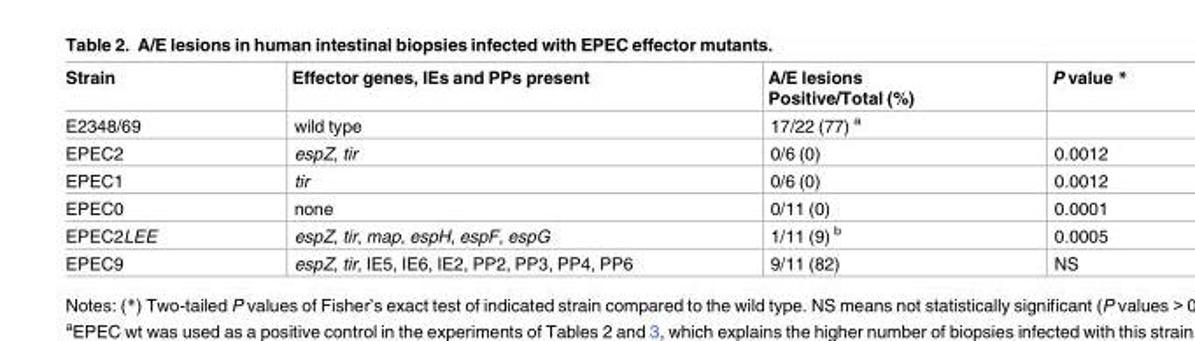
<table><thead><tr><td>Strain</td><td>Effector genes, IEs and PPs present</td><td>A/E lesions Positive/Total (%)</td><td>P value *</td></tr></thead><tbody><tr><td>E2348/69</td><td>wild type</td><td>17/22 (77) <sup>a</sup></td><td></td></tr><tr><td>EPEC2</td><td>espZ, tir</td><td>0/6 (0)</td><td>0.0012</td></tr><tr><td>EPEC1</td><td>tir</td><td>0/6 (0)</td><td>0.0012</td></tr><tr><td>EPEC0</td><td>none</td><td>0/11 (0)</td><td>0.0001</td></tr><tr><td>EPEC2LEE</td><td>espZ, tir, map, espH, espF, espG</td><td>1/11 (9) <sup>b</sup></td><td>0.0005</td></tr><tr><td>EPEC9</td><td>espZ, tir, IE5, IE6, IE2, PP2, PP3, PP4, PP6</td><td>9/11 (82)</td><td>NS</td></tr></tbody></table>